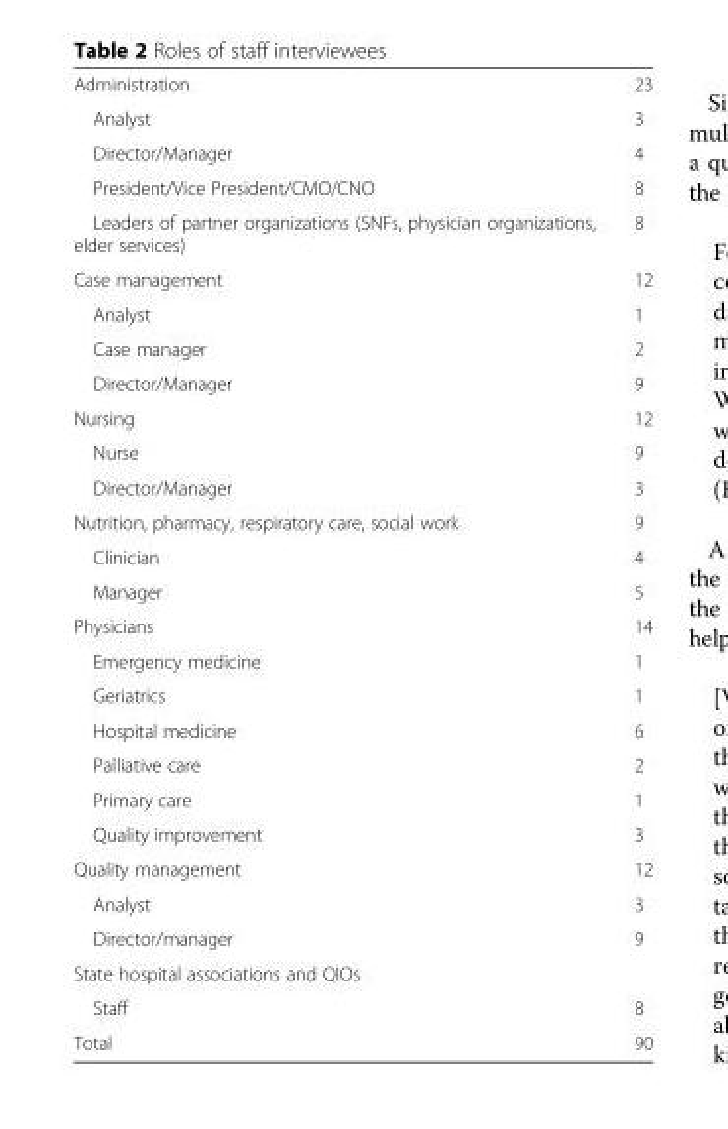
<table><tbody><tr><td>Administration</td><td>23</td></tr><tr><td>Analyst</td><td>3</td></tr><tr><td>Director/Manager</td><td>4</td></tr><tr><td>President/Vice President/CMO/CNO</td><td>8</td></tr><tr><td>Leaders of partner organizations (SNFs, physician organizations, elder services)</td><td>8</td></tr><tr><td>Case management</td><td>12</td></tr><tr><td>Analyst</td><td>1</td></tr><tr><td>Case manager</td><td>2</td></tr><tr><td>Director/Manager</td><td>9</td></tr><tr><td>Nursing</td><td>12</td></tr><tr><td>Nurse</td><td>9</td></tr><tr><td>Director/Manager</td><td>3</td></tr><tr><td>Nutrition, pharmacy, respiratory care, social work</td><td>9</td></tr><tr><td>Clinician</td><td>4</td></tr><tr><td>Manager</td><td>5</td></tr><tr><td>Physicians</td><td>14</td></tr><tr><td>Emergency medicine</td><td>1</td></tr><tr><td>Geriatrics</td><td>1</td></tr><tr><td>Hospital medicine</td><td>6</td></tr><tr><td>Palliative care</td><td>2</td></tr><tr><td>Primary care</td><td>1</td></tr><tr><td>Quality improvement</td><td>3</td></tr><tr><td>Quality management</td><td>12</td></tr><tr><td>Analyst</td><td>3</td></tr><tr><td>Director/manager</td><td>9</td></tr><tr><td colspan="2">State hospital associations and QIOs</td></tr><tr><td>Staff</td><td>8</td></tr><tr><td>Total</td><td>90</td></tr></tbody></table>